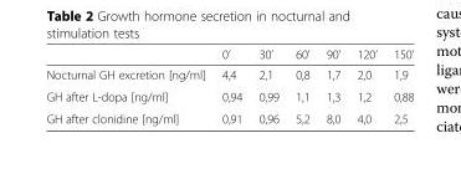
<table><thead><tr><td></td><td>0’</td><td>30’</td><td>60’</td><td>90’</td><td>120’</td><td>150’</td></tr></thead><tbody><tr><td>Nocturnal GH excretion [ng/ml]</td><td>4,4</td><td>2,1</td><td>0,8</td><td>1,7</td><td>2,0</td><td>1,9</td></tr><tr><td>GH after L-dopa [ng/ml]</td><td>0,94</td><td>0,99</td><td>1,1</td><td>1,3</td><td>1,2</td><td>0,88</td></tr><tr><td>GH after clonidine [ng/ml]</td><td>0,91</td><td>0,96</td><td>5,2</td><td>8,0</td><td>4,0</td><td>2,5</td></tr></tbody></table>